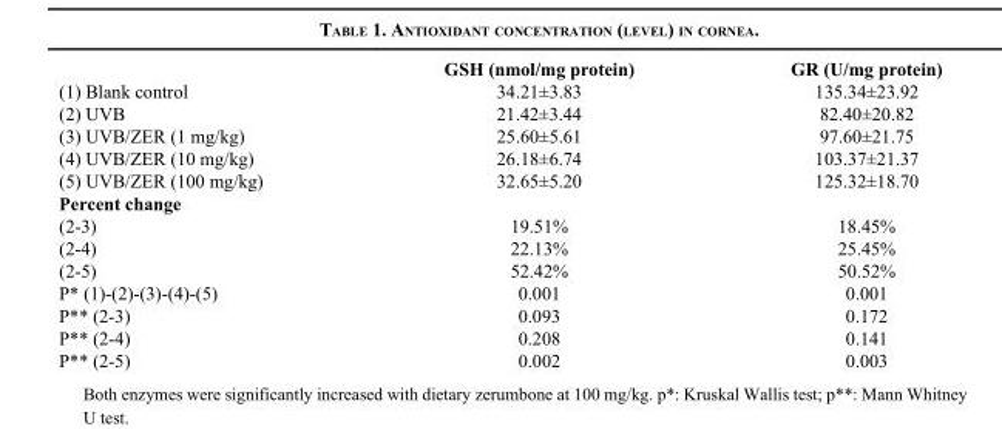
<table><thead><tr><td></td><td>GSH (nmol/mg protein)</td><td>GR (U/mg protein)</td></tr></thead><tbody><tr><td>(1) Blank control</td><td>34.21±3.83</td><td>135.34±23.92</td></tr><tr><td>(2) UVB</td><td>21.42±3.44</td><td>82.40±20.82</td></tr><tr><td>(3) UVB/ZER (1 mg/kg)</td><td>25.60±5.61</td><td>97.60±21.75</td></tr><tr><td>(4) UVB/ZER (10 mg/kg)</td><td>26.18±6.74</td><td>103.37±21.37</td></tr><tr><td>(5) UVB/ZER (100 mg/kg)</td><td>32.65±5.20</td><td>125.32±18.70</td></tr><tr><td colspan="3">Percent change</td></tr><tr><td>(2-3)</td><td>19.51%</td><td>18.45%</td></tr><tr><td>(2-4)</td><td>22.13%</td><td>25.45%</td></tr><tr><td>(2-5)</td><td>52.42%</td><td>50.52%</td></tr><tr><td>P* (1)-(2)-(3)-(4)-(5)</td><td>0.001</td><td>0.001</td></tr><tr><td>P** (2-3)</td><td>0.093</td><td>0.172</td></tr><tr><td>P** (2-4)</td><td>0.208</td><td>0.141</td></tr><tr><td>P** (2-5)</td><td>0.002</td><td>0.003</td></tr></tbody></table>